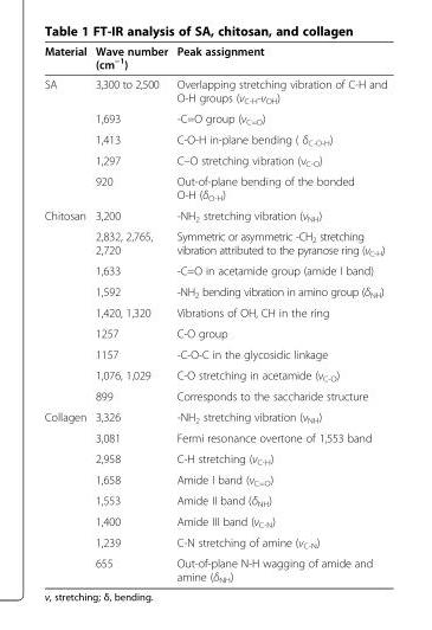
<table><thead><tr><td>Material</td><td>Wave number (cm<sup>−1</sup>)</td><td>Peak assignment</td></tr></thead><tbody><tr><td rowspan="5">SA</td><td>3,300 to 2,500</td><td>Overlapping stretching vibration of C-H and O-H groups (ν<sub>C-H</sub>-ν<sub>OH</sub>)</td></tr><tr><td>1,693</td><td>-C=O group (ν<sub>C=O</sub>)</td></tr><tr><td>1,413</td><td>C-O-H in-plane bending ( δ<sub>C-O-H</sub>)</td></tr><tr><td>1,297</td><td>C–O stretching vibration (ν<sub>C-O</sub>)</td></tr><tr><td>920</td><td>Out-of-plane bending of the bonded O-H (δ<sub>O-H</sub>)</td></tr><tr><td rowspan="9">Chitosan</td><td>3,200</td><td>-NH<sub>2</sub> stretching vibration (ν<sub>NH</sub>)</td></tr><tr><td>2,832, 2,765, 2,720</td><td>Symmetric or asymmetric -CH<sub>2</sub> stretching vibration attributed to the pyranose ring (ν<sub>C-H</sub>)</td></tr><tr><td>1,633</td><td>-C=O in acetamide group (amide I band)</td></tr><tr><td>1,592</td><td>-NH<sub>2</sub> bending vibration in amino group (δ<sub>NH</sub>)</td></tr><tr><td>1,420, 1,320</td><td>Vibrations of OH, CH in the ring</td></tr><tr><td>1257</td><td>C-O group</td></tr><tr><td>1157</td><td>-C-O-C in the glycosidic linkage</td></tr><tr><td>1,076, 1,029</td><td>C-O stretching in acetamide (ν<sub>C-O</sub>)</td></tr><tr><td>899</td><td>Corresponds to the saccharide structure</td></tr><tr><td rowspan="8">Collagen</td><td>3,326</td><td>-NH<sub>2</sub> stretching vibration (ν<sub>NH</sub>)</td></tr><tr><td>3,081</td><td>Fermi resonance overtone of 1,553 band</td></tr><tr><td>2,958</td><td>C-H stretching (ν<sub>C-H</sub>)</td></tr><tr><td>1,658</td><td>Amide I band (ν<sub>C=O</sub>)</td></tr><tr><td>1,553</td><td>Amide II band (δ<sub>NH</sub>)</td></tr><tr><td>1,400</td><td>Amide III band (ν<sub>C-N</sub>)</td></tr><tr><td>1,239</td><td>C-N stretching of amine (ν<sub>C-N</sub>)</td></tr><tr><td>655</td><td>Out-of-plane N-H wagging of amide and amine (δ<sub>NH</sub>)</td></tr></tbody></table>